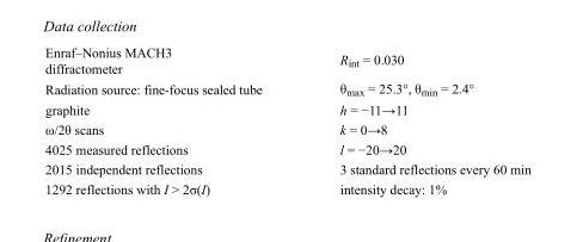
<table><tbody><tr><td>Enraf–Nonius MACH3 diffractometer</td><td>R<sub>int</sub> = 0.030</td></tr><tr><td>Radiation source: fine-focus sealed tube</td><td>θ<sub>max</sub> = 25.3°, θ<sub>min</sub> = 2.4°</td></tr><tr><td>graphite</td><td>h = −11→11</td></tr><tr><td>ω/2θ scans</td><td>k = 0→8</td></tr><tr><td>4025 measured reflections</td><td>l = −20→20</td></tr><tr><td>2015 independent reflections</td><td>3 standard reflections every 60 min</td></tr><tr><td>1292 reflections with I &gt; 2σ(I)</td><td>intensity decay: 1%</td></tr></tbody></table>